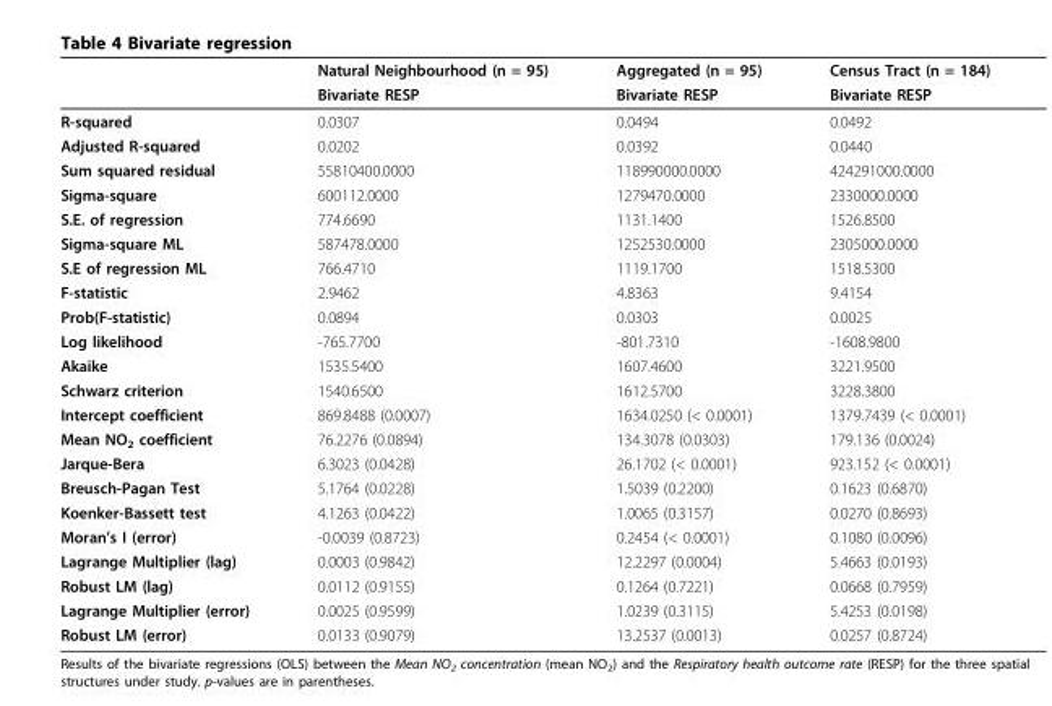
<table><thead><tr><td rowspan="2"></td><td rowspan="2">Natural Neighbourhood (n = 95) Bivariate RESP</td><td rowspan="2">Aggregated (n = 95) Bivariate RESP</td><td rowspan="2">Census Tract (n = 184) Bivariate RESP</td></tr><tr></tr></thead><tbody><tr><td>R-squared</td><td>0.0307</td><td>0.0494</td><td>0.0492</td></tr><tr><td>Adjusted R-squared</td><td>0.0202</td><td>0.0392</td><td>0.0440</td></tr><tr><td>Sum squared residual</td><td>55810400.0000</td><td>118990000.0000</td><td>424291000.0000</td></tr><tr><td>Sigma-square</td><td>600112.0000</td><td>1279470.0000</td><td>2330000.0000</td></tr><tr><td>S.E. of regression</td><td>774.6690</td><td>1131.1400</td><td>1526.8500</td></tr><tr><td>Sigma-square ML</td><td>587478.0000</td><td>1252530.0000</td><td>2305000.0000</td></tr><tr><td>S.E of regression ML</td><td>766.4710</td><td>1119.1700</td><td>1518.5300</td></tr><tr><td>F-statistic</td><td>2.9462</td><td>4.8363</td><td>9.4154</td></tr><tr><td>Prob(F-statistic)</td><td>0.0894</td><td>0.0303</td><td>0.0025</td></tr><tr><td>Log likelihood</td><td>-765.7700</td><td>-801.7310</td><td>-1608.9800</td></tr><tr><td>Akaike</td><td>1535.5400</td><td>1607.4600</td><td>3221.9500</td></tr><tr><td>Schwarz criterion</td><td>1540.6500</td><td>1612.5700</td><td>3228.3800</td></tr><tr><td>Intercept coefficient</td><td>869.8488 (0.0007)</td><td>1634.0250 (&lt; 0.0001)</td><td>1379.7439 (&lt; 0.0001)</td></tr><tr><td>Mean NO<sub>2</sub> coefficient</td><td>76.2276 (0.0894)</td><td>134.3078 (0.0303)</td><td>179.136 (0.0024)</td></tr><tr><td>Jarque-Bera</td><td>6.3023 (0.0428)</td><td>26.1702 (&lt; 0.0001)</td><td>923.152 (&lt; 0.0001)</td></tr><tr><td>Breusch-Pagan Test</td><td>5.1764 (0.0228)</td><td>1.5039 (0.2200)</td><td>0.1623 (0.6870)</td></tr><tr><td>Koenker-Bassett test</td><td>4.1263 (0.0422)</td><td>1.0065 (0.3157)</td><td>0.0270 (0.8693)</td></tr><tr><td>Moran’s I (error)</td><td>-0.0039 (0.8723)</td><td>0.2454 (&lt; 0.0001)</td><td>0.1080 (0.0096)</td></tr><tr><td>Lagrange Multiplier (lag)</td><td>0.0003 (0.9842)</td><td>12.2297 (0.0004)</td><td>5.4663 (0.0193)</td></tr><tr><td>Robust LM (lag)</td><td>0.0112 (0.9155)</td><td>0.1264 (0.7221)</td><td>0.0668 (0.7959)</td></tr><tr><td>Lagrange Multiplier (error)</td><td>0.0025 (0.9599)</td><td>1.0239 (0.3115)</td><td>5.4253 (0.0198)</td></tr><tr><td>Robust LM (error)</td><td>0.0133 (0.9079)</td><td>13.2537 (0.0013)</td><td>0.0257 (0.8724)</td></tr></tbody></table>